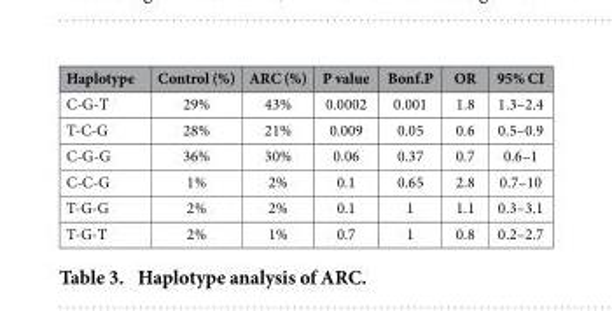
<table><thead><tr><td>Haplotype</td><td>Control (%)</td><td>ARC (%)</td><td>P value</td><td>Bonf.P</td><td>OR</td><td>95% CI</td></tr></thead><tbody><tr><td>C-G-T</td><td>29%</td><td>43%</td><td>0.0002</td><td>0.001</td><td>1.8</td><td>1.3–2.4</td></tr><tr><td>T-C-G</td><td>28%</td><td>21%</td><td>0.009</td><td>0.05</td><td>0.6</td><td>0.5–0.9</td></tr><tr><td>C-G-G</td><td>36%</td><td>30%</td><td>0.06</td><td>0.37</td><td>0.7</td><td>0.6–1</td></tr><tr><td>C-C-G</td><td>1%</td><td>2%</td><td>0.1</td><td>0.65</td><td>2.8</td><td>0.7–10</td></tr><tr><td>T-G-G</td><td>2%</td><td>2%</td><td>0.1</td><td>1</td><td>1.1</td><td>0.3–3.1</td></tr><tr><td>T-G-T</td><td>2%</td><td>1%</td><td>0.7</td><td>1</td><td>0.8</td><td>0.2–2.7</td></tr></tbody></table>